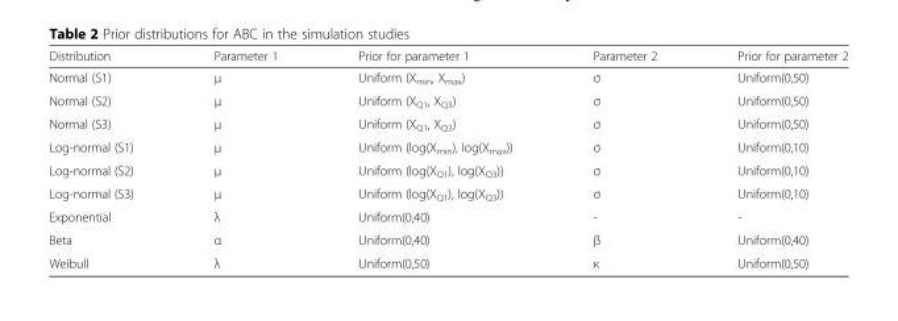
<table><thead><tr><td>Distribution</td><td>Parameter 1</td><td>Prior for parameter 1</td><td>Parameter 2</td><td>Prior for parameter 2</td></tr></thead><tbody><tr><td>Normal (S1)</td><td>μ</td><td>Uniform (X<sub>min</sub>, X<sub>max</sub>)</td><td>σ</td><td>Uniform(0,50)</td></tr><tr><td>Normal (S2)</td><td>μ</td><td>Uniform (X<sub>Q1</sub>, X<sub>Q3</sub>)</td><td>σ</td><td>Uniform(0,50)</td></tr><tr><td>Normal (S3)</td><td>μ</td><td>Uniform (X<sub>Q1</sub>, X<sub>Q3</sub>)</td><td>σ</td><td>Uniform(0,50)</td></tr><tr><td>Log-normal (S1)</td><td>μ</td><td>Uniform (log(X<sub>min</sub>), log(X<sub>max</sub>))</td><td>σ</td><td>Uniform(0,10)</td></tr><tr><td>Log-normal (S2)</td><td>μ</td><td>Uniform (log(X<sub>Q1</sub>), log(X<sub>Q3</sub>))</td><td>σ</td><td>Uniform(0,10)</td></tr><tr><td>Log-normal (S3)</td><td>μ</td><td>Uniform (log(X<sub>Q1</sub>), log(X<sub>Q3</sub>))</td><td>σ</td><td>Uniform(0,10)</td></tr><tr><td>Exponential</td><td>λ</td><td>Uniform(0,40)</td><td>-</td><td>-</td></tr><tr><td>Beta</td><td>α</td><td>Uniform(0,40)</td><td>β</td><td>Uniform(0,40)</td></tr><tr><td>Weibull</td><td>λ</td><td>Uniform(0,50)</td><td>κ</td><td>Uniform(0,50)</td></tr></tbody></table>